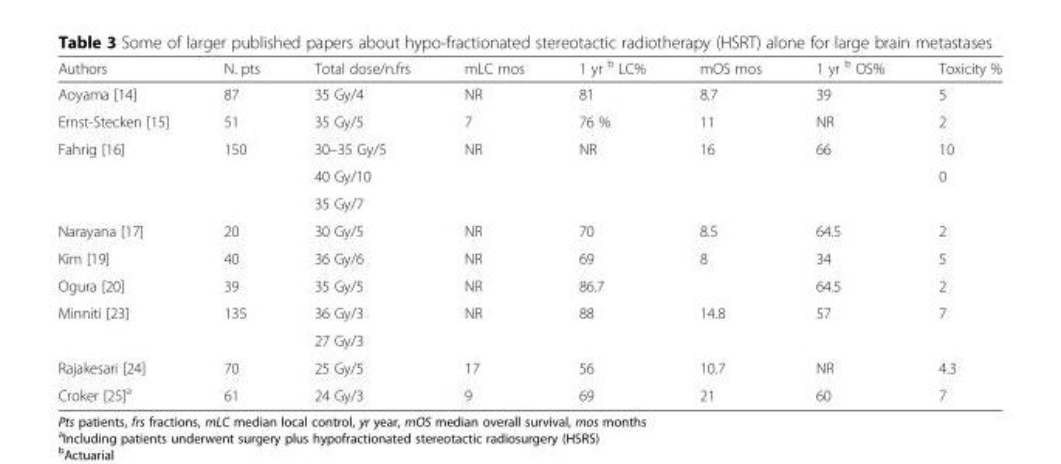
<table><thead><tr><td>Authors</td><td>N. pts</td><td>Total dose/n.frs</td><td>mLC mos</td><td>1 yr <sup>b</sup> LC%</td><td>mOS mos</td><td>1 yr <sup>b</sup> OS%</td><td>Toxicity %</td></tr></thead><tbody><tr><td>Aoyama [14]</td><td>87</td><td>35 Gy/4</td><td>NR</td><td>81</td><td>8.7</td><td>39</td><td>5</td></tr><tr><td>Ernst-Stecken [15]</td><td>51</td><td>35 Gy/5</td><td>7</td><td>76 %</td><td>11</td><td>NR</td><td>2</td></tr><tr><td rowspan="3">Fahrig [16]</td><td rowspan="3">150</td><td>30–35 Gy/5</td><td rowspan="3">NR</td><td rowspan="3">NR</td><td rowspan="3">16</td><td rowspan="3">66</td><td>10</td></tr><tr><td>40 Gy/10</td><td rowspan="2">0</td></tr><tr><td>35 Gy/7</td></tr><tr><td>Narayana [17]</td><td>20</td><td>30 Gy/5</td><td>NR</td><td>70</td><td>8.5</td><td>64.5</td><td>2</td></tr><tr><td>Kim [19]</td><td>40</td><td>36 Gy/6</td><td>NR</td><td>69</td><td>8</td><td>34</td><td>5</td></tr><tr><td>Ogura [20]</td><td>39</td><td>35 Gy/5</td><td>NR</td><td>86.7</td><td></td><td>64.5</td><td>2</td></tr><tr><td rowspan="2">Minniti [23]</td><td rowspan="2">135</td><td>36 Gy/3</td><td rowspan="2">NR</td><td rowspan="2">88</td><td rowspan="2">14.8</td><td rowspan="2">57</td><td rowspan="2">7</td></tr><tr><td>27 Gy/3</td></tr><tr><td>Rajakesari [24]</td><td>70</td><td>25 Gy/5</td><td>17</td><td>56</td><td>10.7</td><td>NR</td><td>4.3</td></tr><tr><td>Croker [25]<sup>a</sup></td><td>61</td><td>24 Gy/3</td><td>9</td><td>69</td><td>21</td><td>60</td><td>7</td></tr></tbody></table>